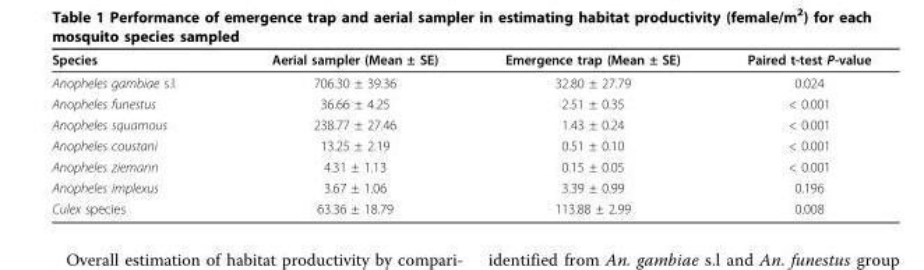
<table><thead><tr><td>Species</td><td>Aerial sampler (Mean ± SE)</td><td>Emergence trap (Mean ± SE)</td><td>Paired t-test P-value</td></tr></thead><tbody><tr><td>Anopheles gambiae s.l.</td><td>706.30 ± 39.36</td><td>32.80 ± 27.79</td><td>0.024</td></tr><tr><td>Anopheles funestus</td><td>36.66 ± 4.25</td><td>2.51 ± 0.35</td><td>&lt; 0.001</td></tr><tr><td>Anopheles squamous</td><td>238.77 ± 27.46</td><td>1.43 ± 0.24</td><td>&lt; 0.001</td></tr><tr><td>Anopheles coustani</td><td>13.25 ± 2.19</td><td>0.51 ± 0.10</td><td>&lt; 0.001</td></tr><tr><td>Anopheles ziemann</td><td>4.31 ± 1.13</td><td>0.15 ± 0.05</td><td>&lt; 0.001</td></tr><tr><td>Anopheles implexus</td><td>3.67 ± 1.06</td><td>3.39 ± 0.99</td><td>0.196</td></tr><tr><td>Culex species</td><td>63.36 ± 18.79</td><td>113.88 ± 2.99</td><td>0.008</td></tr></tbody></table>